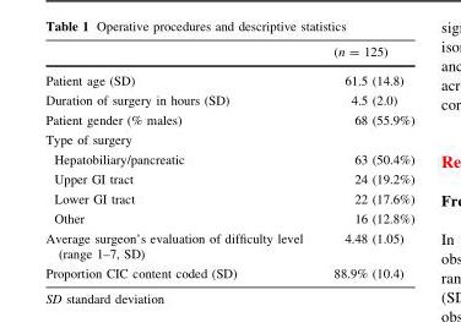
<table><thead><tr><td></td><td>(n = 125)</td></tr></thead><tbody><tr><td>Patient age (SD)</td><td>61.5 (14.8)</td></tr><tr><td>Duration of surgery in hours (SD)</td><td>4.5 (2.0)</td></tr><tr><td>Patient gender (% males)</td><td>68 (55.9%)</td></tr><tr><td colspan="2">Type of surgery</td></tr><tr><td>Hepatobiliary/pancreatic</td><td>63 (50.4%)</td></tr><tr><td>Upper GI tract</td><td>24 (19.2%)</td></tr><tr><td>Lower GI tract</td><td>22 (17.6%)</td></tr><tr><td>Other</td><td>16 (12.8%)</td></tr><tr><td>Average surgeon’s evaluation of difficulty level (range 1–7, SD)</td><td>4.48 (1.05)</td></tr><tr><td>Proportion CIC content coded (SD)</td><td>88.9% (10.4)</td></tr></tbody></table>